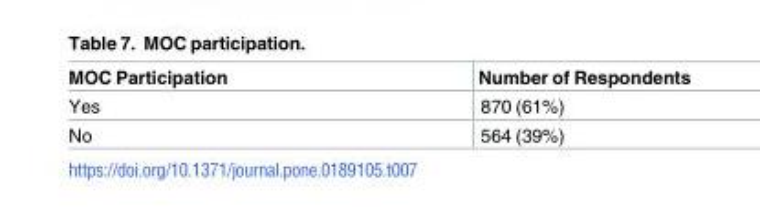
<table><thead><tr><td>MOC Participation</td><td>Number of Respondents</td></tr></thead><tbody><tr><td>Yes</td><td>870 (61%)</td></tr><tr><td>No</td><td>564 (39%)</td></tr></tbody></table>